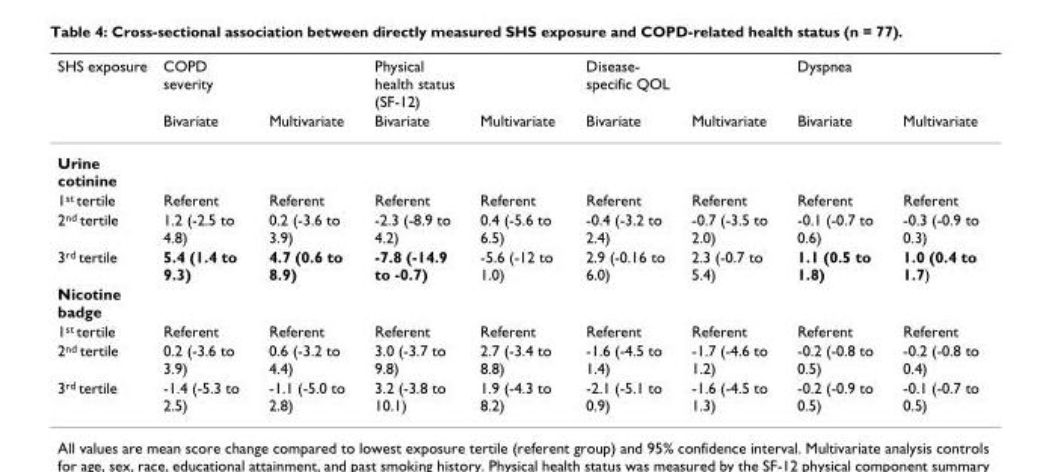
<table><thead><tr><td rowspan="2">SHS exposure</td><td rowspan="2">COPD severity Bivariate</td><td rowspan="2">Multivariate</td><td rowspan="2">Physical health status (SF-12) Bivariate</td><td rowspan="2">Multivariate</td><td rowspan="2">Disease- specific QOL Bivariate</td><td rowspan="2">Multivariate</td><td rowspan="2">Dyspnea Bivariate</td><td rowspan="2">Multivariate</td></tr><tr></tr></thead><tbody><tr><td colspan="9">Urine cotinine</td></tr><tr><td>1st tertile</td><td>Referent</td><td>Referent</td><td>Referent</td><td>Referent</td><td>Referent</td><td>Referent</td><td>Referent</td><td>Referent</td></tr><tr><td>2nd tertile</td><td>1.2 (-2.5 to 4.8)</td><td>0.2 (-3.6 to 3.9)</td><td>-2.3 (-8.9 to 4.2)</td><td>0.4 (-5.6 to 6.5)</td><td>-0.4 (-3.2 to 2.4)</td><td>-0.7 (-3.5 to 2.0)</td><td>-0.1 (-0.7 to 0.6)</td><td>-0.3 (-0.9 to 0.3)</td></tr><tr><td>3rd tertile</td><td>5.4 (1.4 to 9.3)</td><td>4.7 (0.6 to 8.9)</td><td>-7.8 (-14.9 to -0.7)</td><td>-5.6 (-12 to 1.0)</td><td>2.9 (-0.16 to 6.0)</td><td>2.3 (-0.7 to 5.4)</td><td>1.1 (0.5 to 1.8)</td><td>1.0 (0.4 to 1.7)</td></tr><tr><td colspan="9">Nicotine badge</td></tr><tr><td>1st tertile</td><td>Referent</td><td>Referent</td><td>Referent</td><td>Referent</td><td>Referent</td><td>Referent</td><td>Referent</td><td>Referent</td></tr><tr><td>2nd tertile</td><td>0.2 (-3.6 to 3.9)</td><td>0.6 (-3.2 to 4.4)</td><td>3.0 (-3.7 to 9.8)</td><td>2.7 (-3.4 to 8.8)</td><td>-1.6 (-4.5 to 1.4)</td><td>-1.7 (-4.6 to 1.2)</td><td>-0.2 (-0.8 to 0.5)</td><td>-0.2 (-0.8 to 0.4)</td></tr><tr><td>3rd tertile</td><td>-1.4 (-5.3 to 2.5)</td><td>-1.1 (-5.0 to 2.8)</td><td>3.2 (-3.8 to 10.1)</td><td>1.9 (-4.3 to 8.2)</td><td>-2.1 (-5.1 to 0.9)</td><td>-1.6 (-4.5 to 1.3)</td><td>-0.2 (-0.9 to 0.5)</td><td>-0.1 (-0.7 to 0.5)</td></tr></tbody></table>